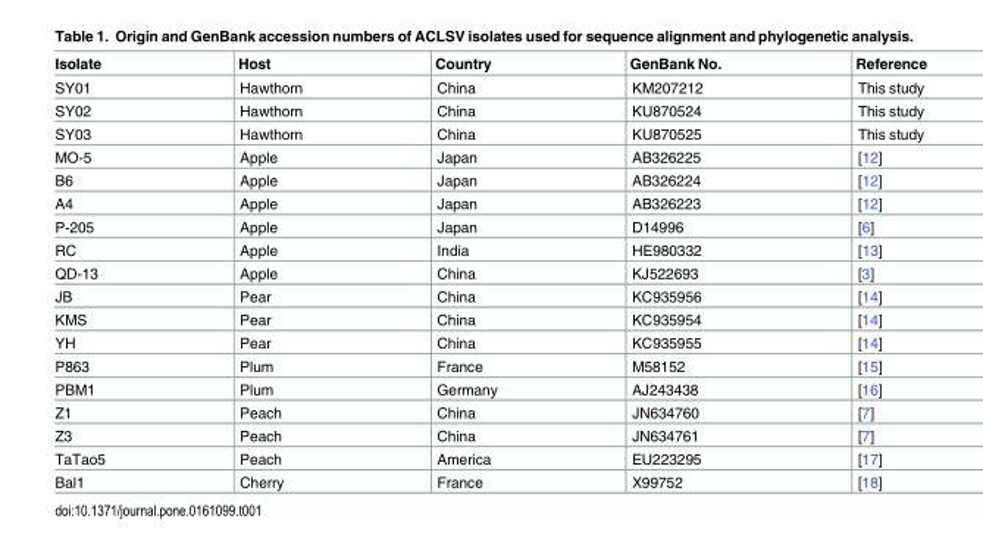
<table><thead><tr><td>Isolate</td><td>Host</td><td>Country</td><td>GenBank No.</td><td>Reference</td></tr></thead><tbody><tr><td>SY01</td><td>Hawthorn</td><td>China</td><td>KM207212</td><td>This study</td></tr><tr><td>SY02</td><td>Hawthorn</td><td>China</td><td>KU870524</td><td>This study</td></tr><tr><td>SY03</td><td>Hawthorn</td><td>China</td><td>KU870525</td><td>This study</td></tr><tr><td>MO-5</td><td>Apple</td><td>Japan</td><td>AB326225</td><td>[12]</td></tr><tr><td>B6</td><td>Apple</td><td>Japan</td><td>AB326224</td><td>[12]</td></tr><tr><td>A4</td><td>Apple</td><td>Japan</td><td>AB326223</td><td>[12]</td></tr><tr><td>P-205</td><td>Apple</td><td>Japan</td><td>D14996</td><td>[6]</td></tr><tr><td>RC</td><td>Apple</td><td>India</td><td>HE980332</td><td>[13]</td></tr><tr><td>QD-13</td><td>Apple</td><td>China</td><td>KJ522693</td><td>[3]</td></tr><tr><td>JB</td><td>Pear</td><td>China</td><td>KC935956</td><td>[14]</td></tr><tr><td>KMS</td><td>Pear</td><td>China</td><td>KC935954</td><td>[14]</td></tr><tr><td>YH</td><td>Pear</td><td>China</td><td>KC935955</td><td>[14]</td></tr><tr><td>P863</td><td>Plum</td><td>France</td><td>M58152</td><td>[15]</td></tr><tr><td>PBM1</td><td>Plum</td><td>Germany</td><td>AJ243438</td><td>[16]</td></tr><tr><td>Z1</td><td>Peach</td><td>China</td><td>JN634760</td><td>[7]</td></tr><tr><td>Z3</td><td>Peach</td><td>China</td><td>JN634761</td><td>[7]</td></tr><tr><td>TaTao5</td><td>Peach</td><td>America</td><td>EU223295</td><td>[17]</td></tr><tr><td>Bal1</td><td>Cherry</td><td>France</td><td>X99752</td><td>[18]</td></tr></tbody></table>